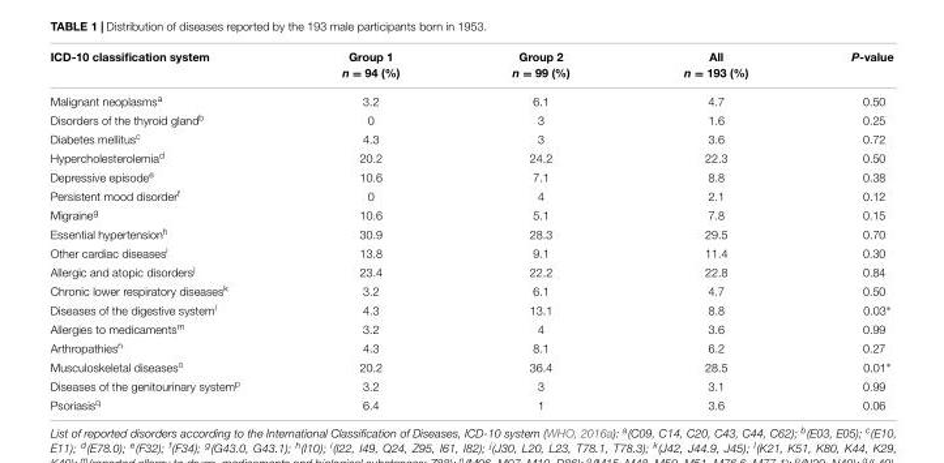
<table><thead><tr><td>ICD-10 classification system</td><td>Group 1 n = 94 (%)</td><td>Group 2 n = 99 (%)</td><td>All n = 193 (%)</td><td>P-value</td></tr></thead><tbody><tr><td>Malignant neoplasms<sup>a</sup></td><td>3.2</td><td>6.1</td><td>4.7</td><td>0.50</td></tr><tr><td>Disorders of the thyroid gland<sup>b</sup></td><td>0</td><td>3</td><td>1.6</td><td>0.25</td></tr><tr><td>Diabetes mellitus<sup>c</sup></td><td>4.3</td><td>3</td><td>3.6</td><td>0.72</td></tr><tr><td>Hypercholesterolemia<sup>d</sup></td><td>20.2</td><td>24.2</td><td>22.3</td><td>0.50</td></tr><tr><td>Depressive episode<sup>e</sup></td><td>10.6</td><td>7.1</td><td>8.8</td><td>0.38</td></tr><tr><td>Persistent mood disorder<sup>f</sup></td><td>0</td><td>4</td><td>2.1</td><td>0.12</td></tr><tr><td>Migraine<sup>g</sup></td><td>10.6</td><td>5.1</td><td>7.8</td><td>0.15</td></tr><tr><td>Essential hypertension<sup>h</sup></td><td>30.9</td><td>28.3</td><td>29.5</td><td>0.70</td></tr><tr><td>Other cardiac diseases<sup>i</sup></td><td>13.8</td><td>9.1</td><td>11.4</td><td>0.30</td></tr><tr><td>Allergic and atopic disorders<sup>j</sup></td><td>23.4</td><td>22.2</td><td>22.8</td><td>0.84</td></tr><tr><td>Chronic lower respiratory diseases<sup>k</sup></td><td>3.2</td><td>6.1</td><td>4.7</td><td>0.50</td></tr><tr><td>Diseases of the digestive system<sup>l</sup></td><td>4.3</td><td>13.1</td><td>8.8</td><td>0.03∗</td></tr><tr><td>Allergies to medicaments<sup>m</sup></td><td>3.2</td><td>4</td><td>3.6</td><td>0.99</td></tr><tr><td>Arthropathies<sup>n</sup></td><td>4.3</td><td>8.1</td><td>6.2</td><td>0.27</td></tr><tr><td>Musculoskeletal diseases<sup>o</sup></td><td>20.2</td><td>36.4</td><td>28.5</td><td>0.01∗</td></tr><tr><td>Diseases of the genitourinary system<sup>p</sup></td><td>3.2</td><td>3</td><td>3.1</td><td>0.99</td></tr><tr><td>Psoriasis<sup>q</sup></td><td>6.4</td><td>1</td><td>3.6</td><td>0.06</td></tr></tbody></table>